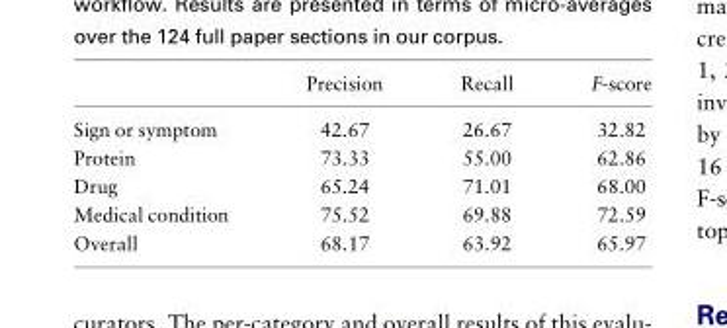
<table><thead><tr><td></td><td>Precision</td><td>Recall</td><td>F-score</td></tr></thead><tbody><tr><td>Sign or symptom</td><td>42.67</td><td>26.67</td><td>32.82</td></tr><tr><td>Protein</td><td>73.33</td><td>55.00</td><td>62.86</td></tr><tr><td>Drug</td><td>65.24</td><td>71.01</td><td>68.00</td></tr><tr><td>Medical condition</td><td>75.52</td><td>69.88</td><td>72.59</td></tr><tr><td>Overall</td><td>68.17</td><td>63.92</td><td>65.97</td></tr></tbody></table>